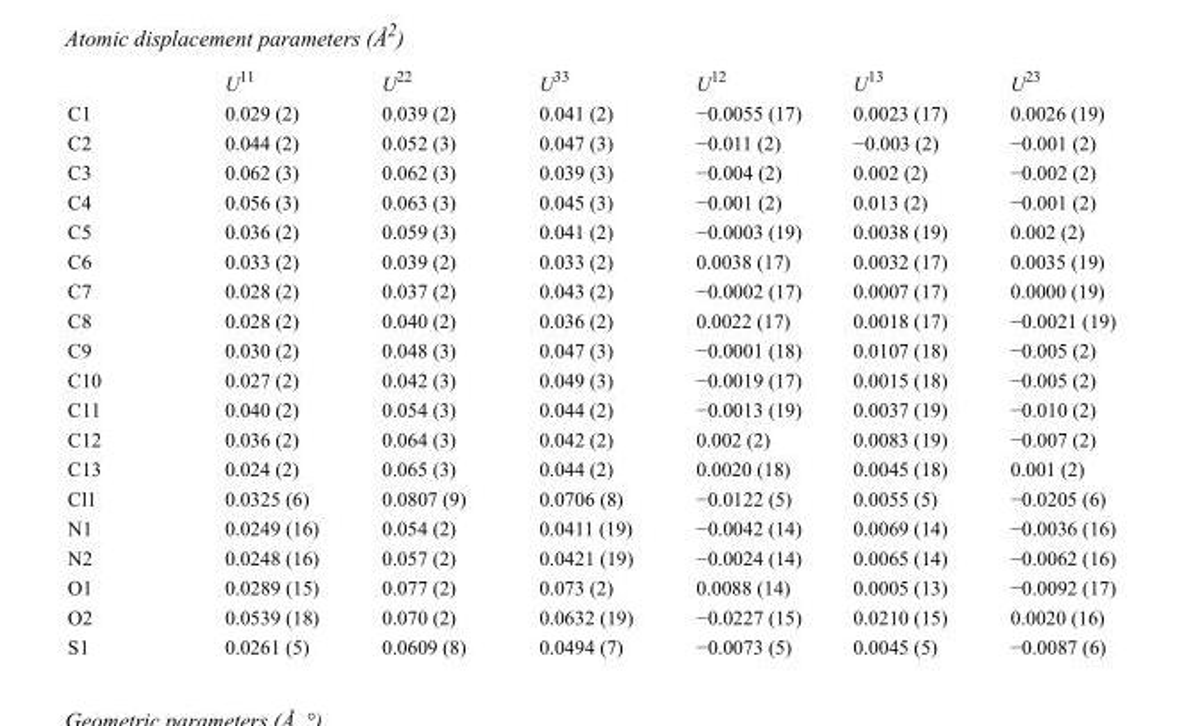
<table><thead><tr><td></td><td>U<sup>11</sup></td><td>U<sup>22</sup></td><td>U<sup>33</sup></td><td>U<sup>12</sup></td><td>U<sup>13</sup></td><td>U<sup>23</sup></td></tr></thead><tbody><tr><td>C1</td><td>0.029 (2)</td><td>0.039 (2)</td><td>0.041 (2)</td><td>−0.0055 (17)</td><td>0.0023 (17)</td><td>0.0026 (19)</td></tr><tr><td>C2</td><td>0.044 (2)</td><td>0.052 (3)</td><td>0.047 (3)</td><td>−0.011 (2)</td><td>−0.003 (2)</td><td>−0.001 (2)</td></tr><tr><td>C3</td><td>0.062 (3)</td><td>0.062 (3)</td><td>0.039 (3)</td><td>−0.004 (2)</td><td>0.002 (2)</td><td>−0.002 (2)</td></tr><tr><td>C4</td><td>0.056 (3)</td><td>0.063 (3)</td><td>0.045 (3)</td><td>−0.001 (2)</td><td>0.013 (2)</td><td>−0.001 (2)</td></tr><tr><td>C5</td><td>0.036 (2)</td><td>0.059 (3)</td><td>0.041 (2)</td><td>−0.0003 (19)</td><td>0.0038 (19)</td><td>0.002 (2)</td></tr><tr><td>C6</td><td>0.033 (2)</td><td>0.039 (2)</td><td>0.033 (2)</td><td>0.0038 (17)</td><td>0.0032 (17)</td><td>0.0035 (19)</td></tr><tr><td>C7</td><td>0.028 (2)</td><td>0.037 (2)</td><td>0.043 (2)</td><td>−0.0002 (17)</td><td>0.0007 (17)</td><td>0.0000 (19)</td></tr><tr><td>C8</td><td>0.028 (2)</td><td>0.040 (2)</td><td>0.036 (2)</td><td>0.0022 (17)</td><td>0.0018 (17)</td><td>−0.0021 (19)</td></tr><tr><td>C9</td><td>0.030 (2)</td><td>0.048 (3)</td><td>0.047 (3)</td><td>−0.0001 (18)</td><td>0.0107 (18)</td><td>−0.005 (2)</td></tr><tr><td>C10</td><td>0.027 (2)</td><td>0.042 (3)</td><td>0.049 (3)</td><td>−0.0019 (17)</td><td>0.0015 (18)</td><td>−0.005 (2)</td></tr><tr><td>C11</td><td>0.040 (2)</td><td>0.054 (3)</td><td>0.044 (2)</td><td>−0.0013 (19)</td><td>0.0037 (19)</td><td>−0.010 (2)</td></tr><tr><td>C12</td><td>0.036 (2)</td><td>0.064 (3)</td><td>0.042 (2)</td><td>0.002 (2)</td><td>0.0083 (19)</td><td>−0.007 (2)</td></tr><tr><td>C13</td><td>0.024 (2)</td><td>0.065 (3)</td><td>0.044 (2)</td><td>0.0020 (18)</td><td>0.0045 (18)</td><td>0.001 (2)</td></tr><tr><td>Cl1</td><td>0.0325 (6)</td><td>0.0807 (9)</td><td>0.0706 (8)</td><td>−0.0122 (5)</td><td>0.0055 (5)</td><td>−0.0205 (6)</td></tr><tr><td>N1</td><td>0.0249 (16)</td><td>0.054 (2)</td><td>0.0411 (19)</td><td>−0.0042 (14)</td><td>0.0069 (14)</td><td>−0.0036 (16)</td></tr><tr><td>N2</td><td>0.0248 (16)</td><td>0.057 (2)</td><td>0.0421 (19)</td><td>−0.0024 (14)</td><td>0.0065 (14)</td><td>−0.0062 (16)</td></tr><tr><td>O1</td><td>0.0289 (15)</td><td>0.077 (2)</td><td>0.073 (2)</td><td>0.0088 (14)</td><td>0.0005 (13)</td><td>−0.0092 (17)</td></tr><tr><td>O2</td><td>0.0539 (18)</td><td>0.070 (2)</td><td>0.0632 (19)</td><td>−0.0227 (15)</td><td>0.0210 (15)</td><td>0.0020 (16)</td></tr><tr><td>S1</td><td>0.0261 (5)</td><td>0.0609 (8)</td><td>0.0494 (7)</td><td>−0.0073 (5)</td><td>0.0045 (5)</td><td>−0.0087 (6)</td></tr></tbody></table>